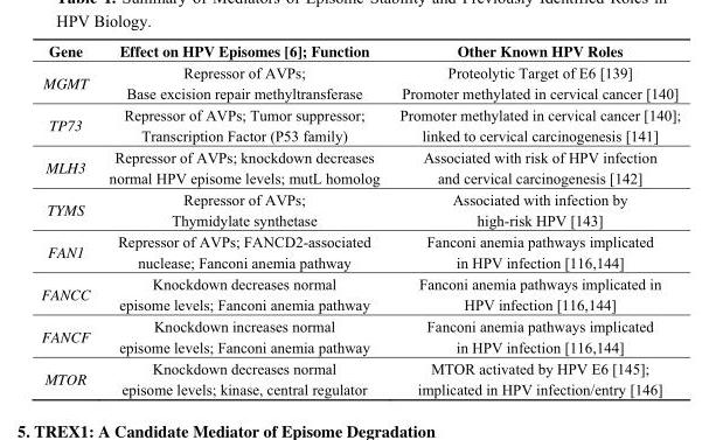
<table><thead><tr><td>Gene</td><td>Effect on HPV Episomes [6]; Function</td><td>Other Known HPV Roles</td></tr></thead><tbody><tr><td>MGMT</td><td>Repressor of AVPs; Base excision repair methyltransferase</td><td>Proteolytic Target of E6 [139] Promoter methylated in cervical cancer [140]</td></tr><tr><td>TP73</td><td>Repressor of AVPs; Tumor suppressor; Transcription Factor (P53 family)</td><td>Promoter methylated in cervical cancer [140]; linked to cervical carcinogenesis [141]</td></tr><tr><td>MLH3</td><td>Repressor of AVPs; knockdown decreases normal HPV episome levels; mutL homolog</td><td>Associated with risk of HPV infection and cervical carcinogenesis [142]</td></tr><tr><td>TYMS</td><td>Repressor of AVPs; Thymidylate synthetase</td><td>Associated with infection by high-risk HPV [143]</td></tr><tr><td>FAN1</td><td>Repressor of AVPs; FANCD2-associated nuclease; Fanconi anemia pathway</td><td>Fanconi anemia pathways implicated in HPV infection [116,144]</td></tr><tr><td>FANCC</td><td>Knockdown decreases normal episome levels; Fanconi anemia pathway</td><td>Fanconi anemia pathways implicated in HPV infection [116,144]</td></tr><tr><td>FANCF</td><td>Knockdown increases normal episome levels; Fanconi anemia pathway</td><td>Fanconi anemia pathways implicated in HPV infection [116,144]</td></tr><tr><td>MTOR</td><td>Knockdown decreases normal episome levels; kinase, central regulator</td><td>MTOR activated by HPV E6 [145]; implicated in HPV infection/entry [146]</td></tr></tbody></table>